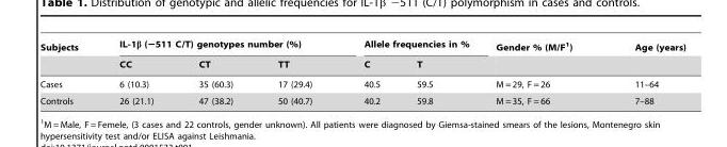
<table><thead><tr><td rowspan="2">Subjects</td><td colspan="3">IL-1β (−511 C/T) genotypes number (%)</td><td colspan="2">Allele frequencies in %</td><td rowspan="2">Gender % (M/F<sup>1</sup>)</td><td rowspan="2">Age (years)</td></tr><tr><td>CC</td><td>CT</td><td>TT</td><td>C</td><td>T</td></tr></thead><tbody><tr><td>Cases</td><td>6 (10.3)</td><td>35 (60.3)</td><td>17 (29.4)</td><td>40.5</td><td>59.5</td><td>M = 29, F = 26</td><td>11–64</td></tr><tr><td>Controls</td><td>26 (21.1)</td><td>47 (38.2)</td><td>50 (40.7)</td><td>40.2</td><td>59.8</td><td>M = 35, F = 66</td><td>7–88</td></tr></tbody></table>